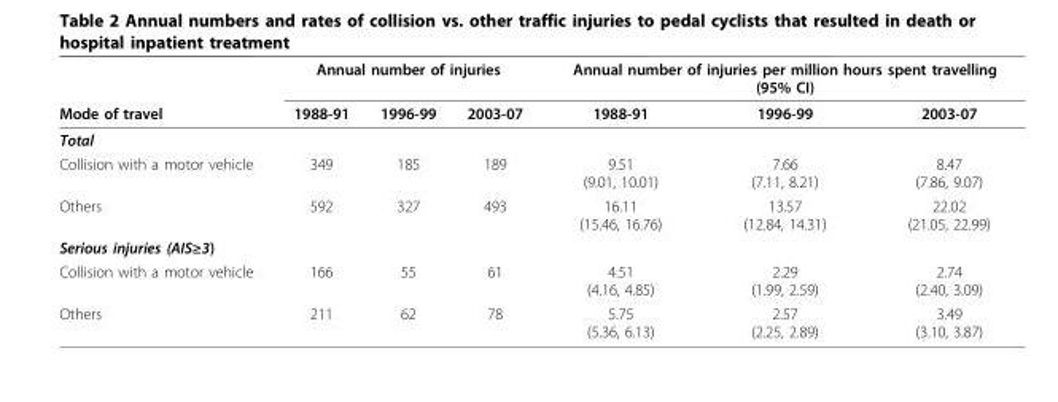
<table><thead><tr><td rowspan="2">Mode of travel</td><td colspan="3">Annual number of injuries</td><td colspan="3">Annual number of injuries per million hours spent travelling (95% CI)</td></tr><tr><td>1988-91</td><td>1996-99</td><td>2003-07</td><td>1988-91</td><td>1996-99</td><td>2003-07</td></tr></thead><tbody><tr><td colspan="7">Total</td></tr><tr><td>Collision with a motor vehicle</td><td>349</td><td>185</td><td>189</td><td>9.51 (9.01, 10.01)</td><td>7.66 (7.11, 8.21)</td><td>8.47 (7.86, 9.07)</td></tr><tr><td>Others</td><td>592</td><td>327</td><td>493</td><td>16.11 (15.46, 16.76)</td><td>13.57 (12.84, 14.31)</td><td>22.02 (21.05, 22.99)</td></tr><tr><td colspan="7">Serious injuries (AIS≥3)</td></tr><tr><td>Collision with a motor vehicle</td><td>166</td><td>55</td><td>61</td><td>4.51 (4.16, 4.85)</td><td>2.29 (1.99, 2.59)</td><td>2.74 (2.40, 3.09)</td></tr><tr><td>Others</td><td>211</td><td>62</td><td>78</td><td>5.75 (5.36, 6.13)</td><td>2.57 (2.25, 2.89)</td><td>3.49 (3.10, 3.87)</td></tr></tbody></table>